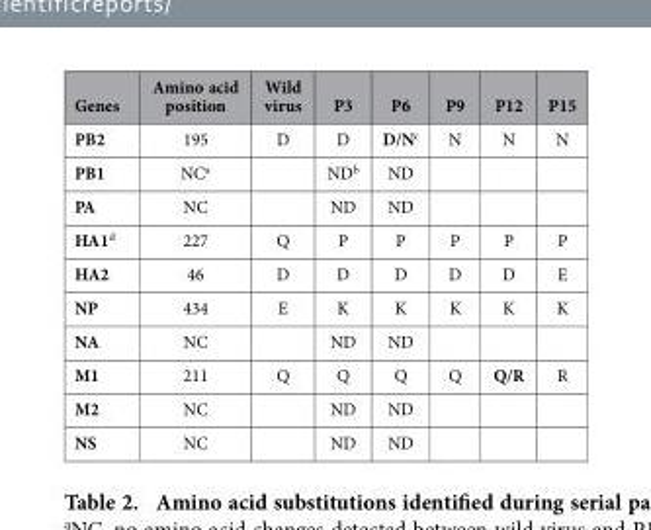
<table><thead><tr><td>Genes</td><td>Amino acid position</td><td>Wild virus</td><td>P3</td><td>P6</td><td>P9</td><td>P12</td><td>P15</td></tr></thead><tbody><tr><td>PB2</td><td>195</td><td>D</td><td>D</td><td>D/N<sup>c</sup></td><td>N</td><td>N</td><td>N</td></tr><tr><td>PB1</td><td>NC<sup>a</sup></td><td></td><td>ND<sup>b</sup></td><td>ND</td><td></td><td></td><td></td></tr><tr><td>PA</td><td>NC</td><td></td><td>ND</td><td>ND</td><td></td><td></td><td></td></tr><tr><td>HA1<sup>d</sup></td><td>227</td><td>Q</td><td>P</td><td>P</td><td>P</td><td>P</td><td>P</td></tr><tr><td>HA2</td><td>46</td><td>D</td><td>D</td><td>D</td><td>D</td><td>D</td><td>E</td></tr><tr><td>NP</td><td>434</td><td>E</td><td>K</td><td>K</td><td>K</td><td>K</td><td>K</td></tr><tr><td>NA</td><td>NC</td><td></td><td>ND</td><td>ND</td><td></td><td></td><td></td></tr><tr><td>M1</td><td>211</td><td>Q</td><td>Q</td><td>Q</td><td>Q</td><td>Q/R</td><td>R</td></tr><tr><td>M2</td><td>NC</td><td></td><td>ND</td><td>ND</td><td></td><td></td><td></td></tr><tr><td>NS</td><td>NC</td><td></td><td>ND</td><td>ND</td><td></td><td></td><td></td></tr></tbody></table>